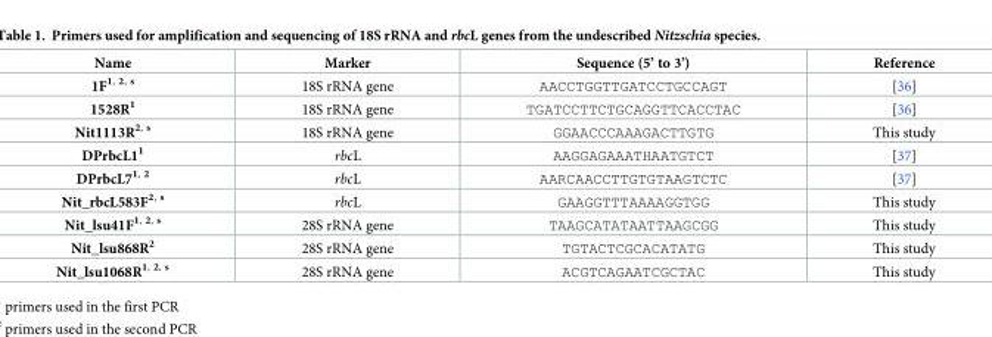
<table><thead><tr><td>Name</td><td>Marker</td><td>Sequence (5’ to 3’)</td><td>Reference</td></tr></thead><tbody><tr><td>1F<sup>1, 2, s</sup></td><td>18S rRNA gene</td><td>AACCTGGTTGATCCTGCCAGT</td><td>[36]</td></tr><tr><td>1528R<sup>1</sup></td><td>18S rRNA gene</td><td>TGATCCTTCTGCAGGTTCACCTAC</td><td>[36]</td></tr><tr><td>Nit1113R<sup>2, s</sup></td><td>18S rRNA gene</td><td>GGAACCCAAAGACTTGTG</td><td>This study</td></tr><tr><td>DPrbcL1<sup>1</sup></td><td>rbcL</td><td>AAGGAGAAATHAATGTCT</td><td>[37]</td></tr><tr><td>DPrbcL7<sup>1, 2</sup></td><td>rbcL</td><td>AARCAACCTTGTGTAAGTCTC</td><td>[37]</td></tr><tr><td>Nit_rbcL583F<sup>2, s</sup></td><td>rbcL</td><td>GAAGGTTTAAAAGGTGG</td><td>This study</td></tr><tr><td>Nit_lsu41F<sup>1, 2, s</sup></td><td>28S rRNA gene</td><td>TAAGCATATAATTAAGCGG</td><td>This study</td></tr><tr><td>Nit_lsu868R<sup>2</sup></td><td>28S rRNA gene</td><td>TGTACTCGCACATATG</td><td>This study</td></tr><tr><td>Nit_lsu1068R<sup>1, 2, s</sup></td><td>28S rRNA gene</td><td>ACGTCAGAATCGCTAC</td><td>This study</td></tr></tbody></table>